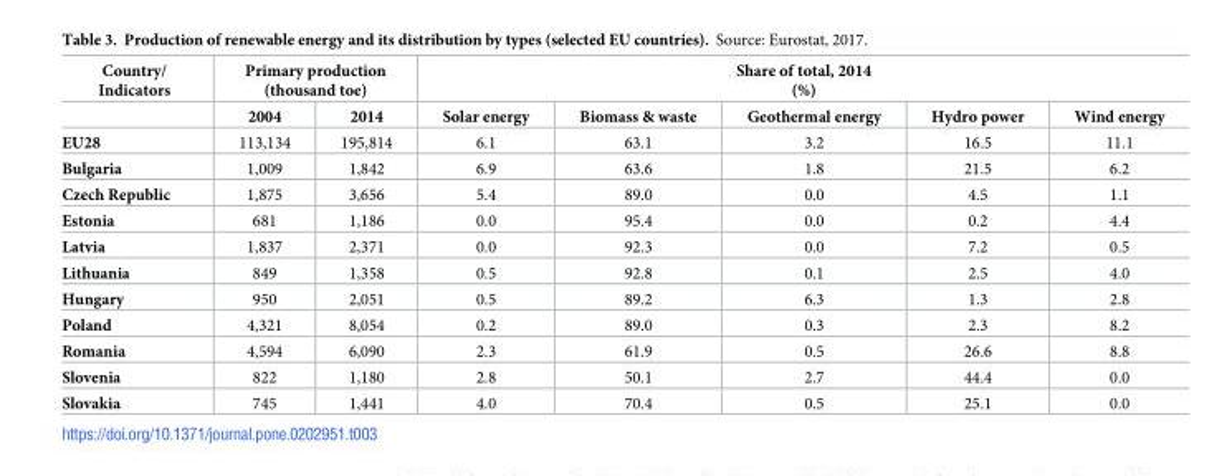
<table><thead><tr><td rowspan="2">Country/ Indicators</td><td colspan="2">Primary production (thousand toe)</td><td colspan="5">Share of total, 2014 (%)</td></tr><tr><td>2004</td><td>2014</td><td>Solar energy</td><td>Biomass &amp; waste</td><td>Geothermal energy</td><td>Hydro power</td><td>Wind energy</td></tr></thead><tbody><tr><td>EU28</td><td>113,134</td><td>195,814</td><td>6.1</td><td>63.1</td><td>3.2</td><td>16.5</td><td>11.1</td></tr><tr><td>Bulgaria</td><td>1,009</td><td>1,842</td><td>6.9</td><td>63.6</td><td>1.8</td><td>21.5</td><td>6.2</td></tr><tr><td>Czech Republic</td><td>1,875</td><td>3,656</td><td>5.4</td><td>89.0</td><td>0.0</td><td>4.5</td><td>1.1</td></tr><tr><td>Estonia</td><td>681</td><td>1,186</td><td>0.0</td><td>95.4</td><td>0.0</td><td>0.2</td><td>4.4</td></tr><tr><td>Latvia</td><td>1,837</td><td>2,371</td><td>0.0</td><td>92.3</td><td>0.0</td><td>7.2</td><td>0.5</td></tr><tr><td>Lithuania</td><td>849</td><td>1,358</td><td>0.5</td><td>92.8</td><td>0.1</td><td>2.5</td><td>4.0</td></tr><tr><td>Hungary</td><td>950</td><td>2,051</td><td>0.5</td><td>89.2</td><td>6.3</td><td>1.3</td><td>2.8</td></tr><tr><td>Poland</td><td>4,321</td><td>8,054</td><td>0.2</td><td>89.0</td><td>0.3</td><td>2.3</td><td>8.2</td></tr><tr><td>Romania</td><td>4,594</td><td>6,090</td><td>2.3</td><td>61.9</td><td>0.5</td><td>26.6</td><td>8.8</td></tr><tr><td>Slovenia</td><td>822</td><td>1,180</td><td>2.8</td><td>50.1</td><td>2.7</td><td>44.4</td><td>0.0</td></tr><tr><td>Slovakia</td><td>745</td><td>1,441</td><td>4.0</td><td>70.4</td><td>0.5</td><td>25.1</td><td>0.0</td></tr></tbody></table>